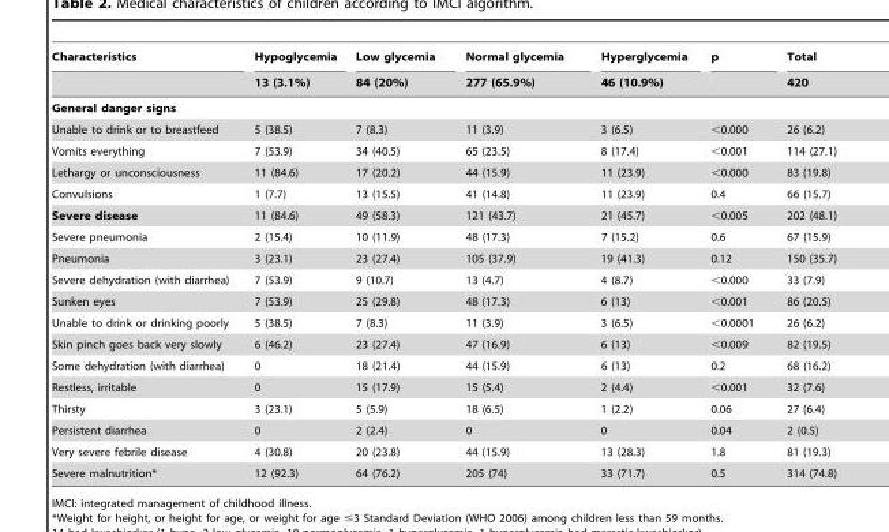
<table><thead><tr><td rowspan="2">Characteristics</td><td rowspan="2">Hypoglycemia 13 (3.1%)</td><td rowspan="2">Low glycemia 84 (20%)</td><td rowspan="2">Normal glycemia 277 (65.9%)</td><td rowspan="2">Hyperglycemia 46 (10.9%)</td><td rowspan="2">p</td><td rowspan="2">Total 420</td></tr><tr></tr></thead><tbody><tr><td colspan="7">General danger signs</td></tr><tr><td>Unable to drink or to breastfeed</td><td>5 (38.5)</td><td>7 (8.3)</td><td>11 (3.9)</td><td>3 (6.5)</td><td>&lt;0.000</td><td>26 (6.2)</td></tr><tr><td>Vomits everything</td><td>7 (53.9)</td><td>34 (40.5)</td><td>65 (23.5)</td><td>8 (17.4)</td><td>&lt;0.001</td><td>114 (27.1)</td></tr><tr><td>Lethargy or unconsciousness</td><td>11 (84.6)</td><td>17 (20.2)</td><td>44 (15.9)</td><td>11 (23.9)</td><td>&lt;0.000</td><td>83 (19.8)</td></tr><tr><td>Convulsions</td><td>1 (7.7)</td><td>13 (15.5)</td><td>41 (14.8)</td><td>11 (23.9)</td><td>0.4</td><td>66 (15.7)</td></tr><tr><td>Severe disease</td><td>11 (84.6)</td><td>49 (58.3)</td><td>121 (43.7)</td><td>21 (45.7)</td><td>&lt;0.005</td><td>202 (48.1)</td></tr><tr><td>Severe pneumonia</td><td>2 (15.4)</td><td>10 (11.9)</td><td>48 (17.3)</td><td>7 (15.2)</td><td>0.6</td><td>67 (15.9)</td></tr><tr><td>Pneumonia</td><td>3 (23.1)</td><td>23 (27.4)</td><td>105 (37.9)</td><td>19 (41.3)</td><td>0.12</td><td>150 (35.7)</td></tr><tr><td>Severe dehydration (with diarrhea)</td><td>7 (53.9)</td><td>9 (10.7)</td><td>13 (4.7)</td><td>4 (8.7)</td><td>&lt;0.000</td><td>33 (7.9)</td></tr><tr><td>Sunken eyes</td><td>7 (53.9)</td><td>25 (29.8)</td><td>48 (17.3)</td><td>6 (13)</td><td>&lt;0.001</td><td>86 (20.5)</td></tr><tr><td>Unable to drink or drinking poorly</td><td>5 (38.5)</td><td>7 (8.3)</td><td>11 (3.9)</td><td>3 (6.5)</td><td>&lt;0.0001</td><td>26 (6.2)</td></tr><tr><td>Skin pinch goes back very slowly</td><td>6 (46.2)</td><td>23 (27.4)</td><td>47 (16.9)</td><td>6 (13)</td><td>&lt;0.009</td><td>82 (19.5)</td></tr><tr><td>Some dehydration (with diarrhea)</td><td>0</td><td>18 (21.4)</td><td>44 (15.9)</td><td>6 (13)</td><td>0.2</td><td>68 (16.2)</td></tr><tr><td>Restless, irritable</td><td>0</td><td>15 (17.9)</td><td>15 (5.4)</td><td>2 (4.4)</td><td>&lt;0.001</td><td>32 (7.6)</td></tr><tr><td>Thirsty</td><td>3 (23.1)</td><td>5 (5.9)</td><td>18 (6.5)</td><td>1 (2.2)</td><td>0.06</td><td>27 (6.4)</td></tr><tr><td>Persistent diarrhea</td><td>0</td><td>2 (2.4)</td><td>0</td><td>0</td><td>0.04</td><td>2 (0.5)</td></tr><tr><td>Very severe febrile disease</td><td>4 (30.8)</td><td>20 (23.8)</td><td>44 (15.9)</td><td>13 (28.3)</td><td>1.8</td><td>81 (19.3)</td></tr><tr><td>Severe malnutrition*</td><td>12 (92.3)</td><td>64 (76.2)</td><td>205 (74)</td><td>33 (71.7)</td><td>0.5</td><td>314 (74.8)</td></tr></tbody></table>